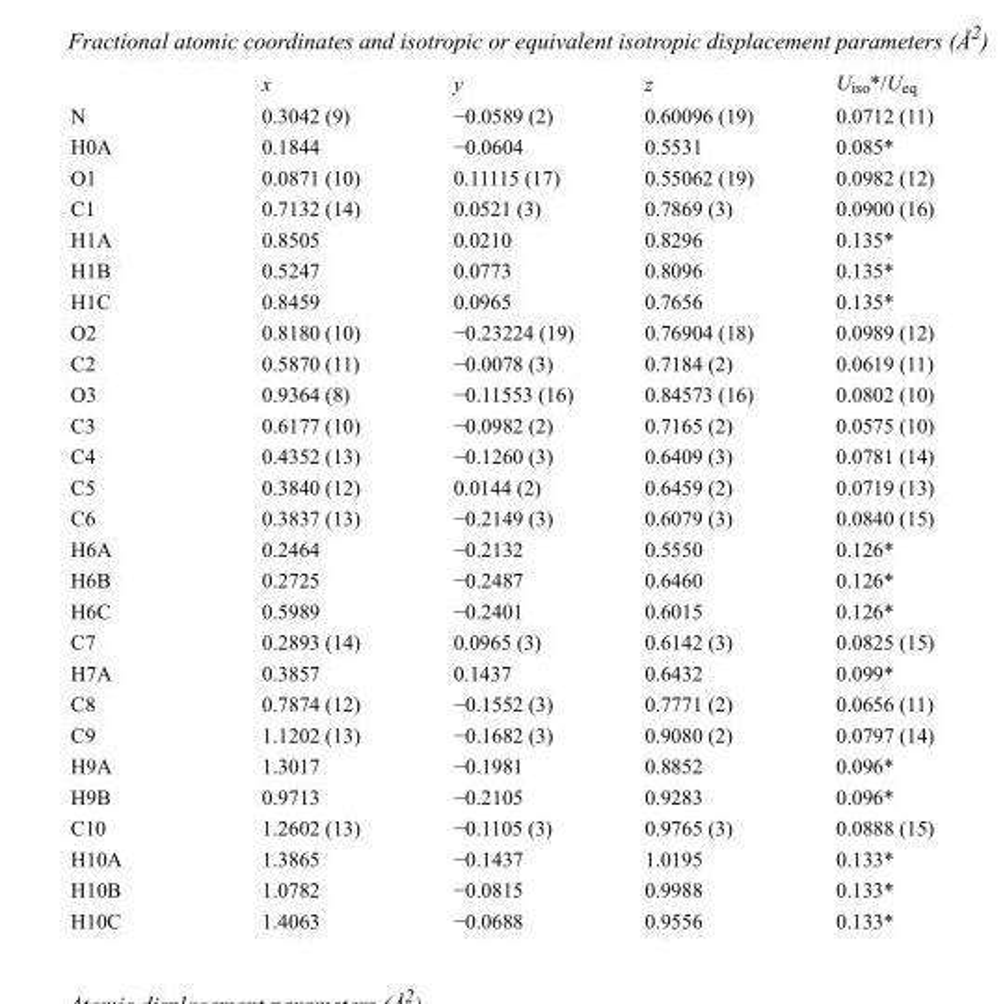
<table><thead><tr><td></td><td>x</td><td>y</td><td>z</td><td>U<sub>iso</sub>*/U<sub>eq</sub></td></tr></thead><tbody><tr><td>N</td><td>0.3042 (9)</td><td>−0.0589 (2)</td><td>0.60096 (19)</td><td>0.0712 (11)</td></tr><tr><td>H0A</td><td>0.1844</td><td>−0.0604</td><td>0.5531</td><td>0.085*</td></tr><tr><td>O1</td><td>0.0871 (10)</td><td>0.11115 (17)</td><td>0.55062 (19)</td><td>0.0982 (12)</td></tr><tr><td>C1</td><td>0.7132 (14)</td><td>0.0521 (3)</td><td>0.7869 (3)</td><td>0.0900 (16)</td></tr><tr><td>H1A</td><td>0.8505</td><td>0.0210</td><td>0.8296</td><td>0.135*</td></tr><tr><td>H1B</td><td>0.5247</td><td>0.0773</td><td>0.8096</td><td>0.135*</td></tr><tr><td>H1C</td><td>0.8459</td><td>0.0965</td><td>0.7656</td><td>0.135*</td></tr><tr><td>O2</td><td>0.8180 (10)</td><td>−0.23224 (19)</td><td>0.76904 (18)</td><td>0.0989 (12)</td></tr><tr><td>C2</td><td>0.5870 (11)</td><td>−0.0078 (3)</td><td>0.7184 (2)</td><td>0.0619 (11)</td></tr><tr><td>O3</td><td>0.9364 (8)</td><td>−0.11553 (16)</td><td>0.84573 (16)</td><td>0.0802 (10)</td></tr><tr><td>C3</td><td>0.6177 (10)</td><td>−0.0982 (2)</td><td>0.7165 (2)</td><td>0.0575 (10)</td></tr><tr><td>C4</td><td>0.4352 (13)</td><td>−0.1260 (3)</td><td>0.6409 (3)</td><td>0.0781 (14)</td></tr><tr><td>C5</td><td>0.3840 (12)</td><td>0.0144 (2)</td><td>0.6459 (2)</td><td>0.0719 (13)</td></tr><tr><td>C6</td><td>0.3837 (13)</td><td>−0.2149 (3)</td><td>0.6079 (3)</td><td>0.0840 (15)</td></tr><tr><td>H6A</td><td>0.2464</td><td>−0.2132</td><td>0.5550</td><td>0.126*</td></tr><tr><td>H6B</td><td>0.2725</td><td>−0.2487</td><td>0.6460</td><td>0.126*</td></tr><tr><td>H6C</td><td>0.5989</td><td>−0.2401</td><td>0.6015</td><td>0.126*</td></tr><tr><td>C7</td><td>0.2893 (14)</td><td>0.0965 (3)</td><td>0.6142 (3)</td><td>0.0825 (15)</td></tr><tr><td>H7A</td><td>0.3857</td><td>0.1437</td><td>0.6432</td><td>0.099*</td></tr><tr><td>C8</td><td>0.7874 (12)</td><td>−0.1552 (3)</td><td>0.7771 (2)</td><td>0.0656 (11)</td></tr><tr><td>C9</td><td>1.1202 (13)</td><td>−0.1682 (3)</td><td>0.9080 (2)</td><td>0.0797 (14)</td></tr><tr><td>H9A</td><td>1.3017</td><td>−0.1981</td><td>0.8852</td><td>0.096*</td></tr><tr><td>H9B</td><td>0.9713</td><td>−0.2105</td><td>0.9283</td><td>0.096*</td></tr><tr><td>C10</td><td>1.2602 (13)</td><td>−0.1105 (3)</td><td>0.9765 (3)</td><td>0.0888 (15)</td></tr><tr><td>H10A</td><td>1.3865</td><td>−0.1437</td><td>1.0195</td><td>0.133*</td></tr><tr><td>H10B</td><td>1.0782</td><td>−0.0815</td><td>0.9988</td><td>0.133*</td></tr><tr><td>H10C</td><td>1.4063</td><td>−0.0688</td><td>0.9556</td><td>0.133*</td></tr></tbody></table>